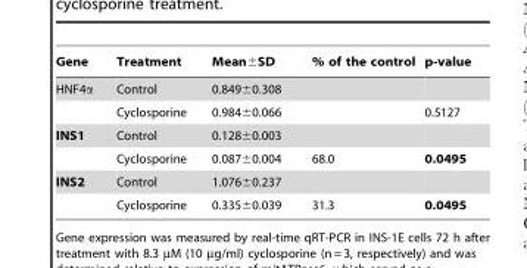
<table><thead><tr><td>Gene</td><td>Treatment</td><td>Mean±SD</td><td>% of the control</td><td>p-value</td></tr></thead><tbody><tr><td rowspan="2">HNF4α</td><td>Control</td><td>0.849±0.308</td><td></td><td></td></tr><tr><td>Cyclosporine</td><td>0.984±0.066</td><td></td><td>0.5127</td></tr><tr><td rowspan="2">INS1</td><td>Control</td><td>0.128±0.003</td><td></td><td></td></tr><tr><td>Cyclosporine</td><td>0.087±0.004</td><td>68.0</td><td>0.0495</td></tr><tr><td rowspan="2">INS2</td><td>Control</td><td>1.076±0.237</td><td></td><td></td></tr><tr><td>Cyclosporine</td><td>0.335±0.039</td><td>31.3</td><td>0.0495</td></tr></tbody></table>